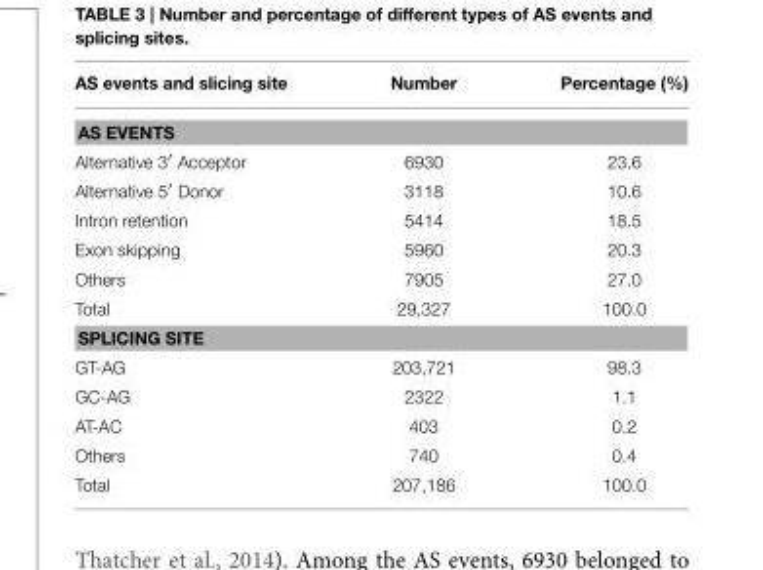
<table><thead><tr><td>AS events and slicing site</td><td>Number</td><td>Percentage (%)</td></tr></thead><tbody><tr><td colspan="3">AS EVENTS</td></tr><tr><td>Alternative 3′ Acceptor</td><td>6930</td><td>23.6</td></tr><tr><td>Alternative 5′ Donor</td><td>3118</td><td>10.6</td></tr><tr><td>Intron retention</td><td>5414</td><td>18.5</td></tr><tr><td>Exon skipping</td><td>5960</td><td>20.3</td></tr><tr><td>Others</td><td>7905</td><td>27.0</td></tr><tr><td>Total</td><td>29,327</td><td>100.0</td></tr><tr><td colspan="3">SPLICING SITE</td></tr><tr><td>GT-AG</td><td>203,721</td><td>98.3</td></tr><tr><td>GC-AG</td><td>2322</td><td>1.1</td></tr><tr><td>AT-AC</td><td>403</td><td>0.2</td></tr><tr><td>Others</td><td>740</td><td>0.4</td></tr><tr><td>Total</td><td>207,186</td><td>100.0</td></tr></tbody></table>